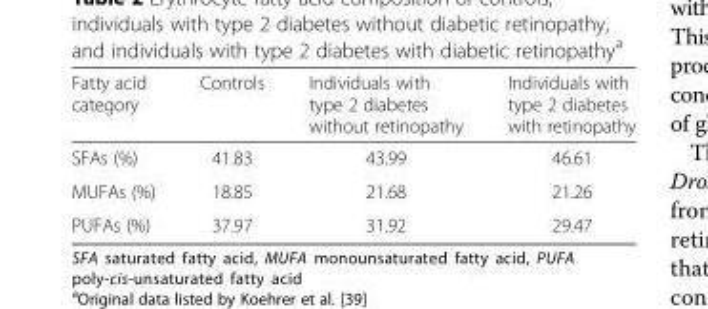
<table><thead><tr><td>Fatty acid category</td><td>Controls</td><td>Individuals with type 2 diabetes without retinopathy</td><td>Individuals with type 2 diabetes with retinopathy</td></tr></thead><tbody><tr><td>SFAs (%)</td><td>41.83</td><td>43.99</td><td>46.61</td></tr><tr><td>MUFAs (%)</td><td>18.85</td><td>21.68</td><td>21.26</td></tr><tr><td>PUFAs (%)</td><td>37.97</td><td>31.92</td><td>29.47</td></tr></tbody></table>